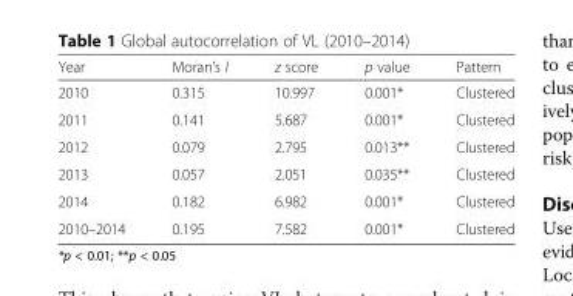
<table><thead><tr><td>Year</td><td>Moran’s I</td><td>z score</td><td>p value</td><td>Pattern</td></tr></thead><tbody><tr><td>2010</td><td>0.315</td><td>10.997</td><td>0.001*</td><td>Clustered</td></tr><tr><td>2011</td><td>0.141</td><td>5.687</td><td>0.001*</td><td>Clustered</td></tr><tr><td>2012</td><td>0.079</td><td>2.795</td><td>0.013**</td><td>Clustered</td></tr><tr><td>2013</td><td>0.057</td><td>2.051</td><td>0.035**</td><td>Clustered</td></tr><tr><td>2014</td><td>0.182</td><td>6.982</td><td>0.001*</td><td>Clustered</td></tr><tr><td>2010–2014</td><td>0.195</td><td>7.582</td><td>0.001*</td><td>Clustered</td></tr></tbody></table>